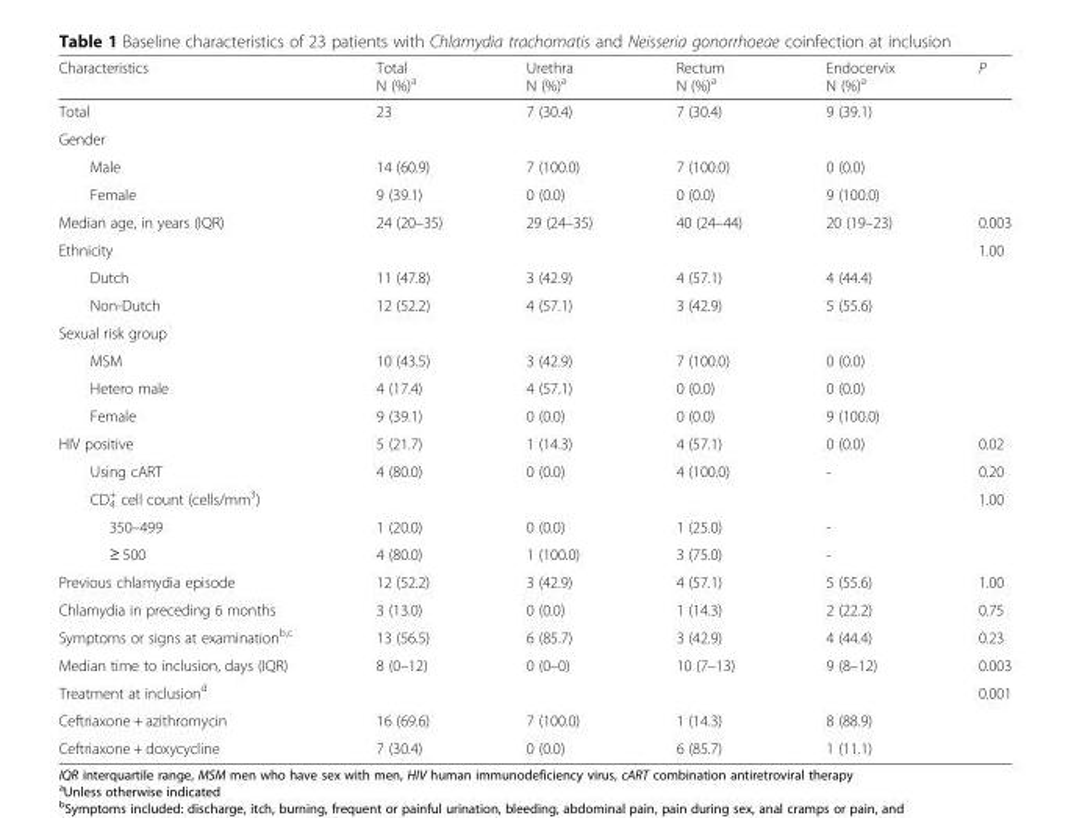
<table><thead><tr><td>Characteristics</td><td>Total N (%)<sup>a</sup></td><td>Urethra N (%)<sup>a</sup></td><td>Rectum N (%)<sup>a</sup></td><td>Endocervix N (%)<sup>a</sup></td><td>P</td></tr></thead><tbody><tr><td>Total</td><td>23</td><td>7 (30.4)</td><td>7 (30.4)</td><td>9 (39.1)</td><td></td></tr><tr><td colspan="6">Gender</td></tr><tr><td>Male</td><td>14 (60.9)</td><td>7 (100.0)</td><td>7 (100.0)</td><td>0 (0.0)</td><td></td></tr><tr><td>Female</td><td>9 (39.1)</td><td>0 (0.0)</td><td>0 (0.0)</td><td>9 (100.0)</td><td></td></tr><tr><td>Median age, in years (IQR)</td><td>24 (20–35)</td><td>29 (24–35)</td><td>40 (24–44)</td><td>20 (19–23)</td><td>0.003</td></tr><tr><td>Ethnicity</td><td></td><td></td><td></td><td></td><td>1.00</td></tr><tr><td>Dutch</td><td>11 (47.8)</td><td>3 (42.9)</td><td>4 (57.1)</td><td>4 (44.4)</td><td></td></tr><tr><td>Non-Dutch</td><td>12 (52.2)</td><td>4 (57.1)</td><td>3 (42.9)</td><td>5 (55.6)</td><td></td></tr><tr><td colspan="6">Sexual risk group</td></tr><tr><td>MSM</td><td>10 (43.5)</td><td>3 (42.9)</td><td>7 (100.0)</td><td>0 (0.0)</td><td></td></tr><tr><td>Hetero male</td><td>4 (17.4)</td><td>4 (57.1)</td><td>0 (0.0)</td><td>0 (0.0)</td><td></td></tr><tr><td>Female</td><td>9 (39.1)</td><td>0 (0.0)</td><td>0 (0.0)</td><td>9 (100.0)</td><td></td></tr><tr><td>HIV positive</td><td>5 (21.7)</td><td>1 (14.3)</td><td>4 (57.1)</td><td>0 (0.0)</td><td>0.02</td></tr><tr><td>Using cART</td><td>4 (80.0)</td><td>0 (0.0)</td><td>4 (100.0)</td><td>-</td><td>0.20</td></tr><tr><td>CD<sub>4</sub> <sup>+</sup> cell count (cells/mm<sup>3</sup>)</td><td></td><td></td><td></td><td></td><td>1.00</td></tr><tr><td>350–499</td><td>1 (20.0)</td><td>0 (0.0)</td><td>1 (25.0)</td><td>-</td><td></td></tr><tr><td>≥ 500</td><td>4 (80.0)</td><td>1 (100.0)</td><td>3 (75.0)</td><td>-</td><td></td></tr><tr><td>Previous chlamydia episode</td><td>12 (52.2)</td><td>3 (42.9)</td><td>4 (57.1)</td><td>5 (55.6)</td><td>1.00</td></tr><tr><td>Chlamydia in preceding 6 months</td><td>3 (13.0)</td><td>0 (0.0)</td><td>1 (14.3)</td><td>2 (22.2)</td><td>0.75</td></tr><tr><td>Symptoms or signs at examination<sup>b,c</sup></td><td>13 (56.5)</td><td>6 (85.7)</td><td>3 (42.9)</td><td>4 (44.4)</td><td>0.23</td></tr><tr><td>Median time to inclusion, days (IQR)</td><td>8 (0–12)</td><td>0 (0–0)</td><td>10 (7–13)</td><td>9 (8–12)</td><td>0.003</td></tr><tr><td>Treatment at inclusion<sup>d</sup></td><td></td><td></td><td></td><td></td><td>0.001</td></tr><tr><td>Ceftriaxone + azithromycin</td><td>16 (69.6)</td><td>7 (100.0)</td><td>1 (14.3)</td><td>8 (88.9)</td><td></td></tr><tr><td>Ceftriaxone + doxycycline</td><td>7 (30.4)</td><td>0 (0.0)</td><td>6 (85.7)</td><td>1 (11.1)</td><td></td></tr></tbody></table>